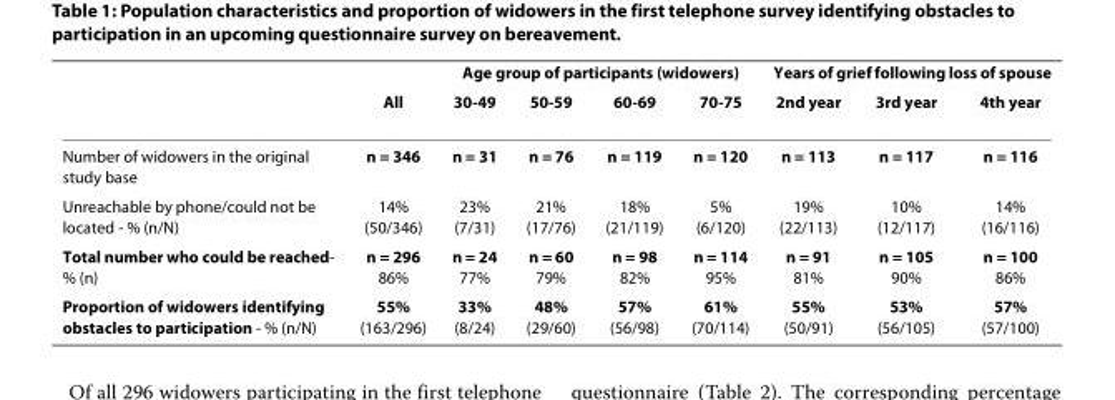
<table><thead><tr><td rowspan="2"></td><td rowspan="2">All</td><td colspan="4">Age group of participants (widowers)</td><td colspan="3">Years of grief following loss of spouse</td></tr><tr><td>30-49</td><td>50-59</td><td>60-69</td><td>70-75</td><td>2nd year</td><td>3rd year</td><td>4th year</td></tr></thead><tbody><tr><td>Number of widowers in the original study base</td><td>n = 346</td><td>n = 31</td><td>n = 76</td><td>n = 119</td><td>n = 120</td><td>n = 113</td><td>n = 117</td><td>n = 116</td></tr><tr><td>Unreachable by phone/could not be located - % (n/N)</td><td>14% (50/346)</td><td>23% (7/31)</td><td>21% (17/76)</td><td>18% (21/119)</td><td>5% (6/120)</td><td>19% (22/113)</td><td>10% (12/117)</td><td>14% (16/116)</td></tr><tr><td>Total number who could be reached- % (n)</td><td>n = 296 86%</td><td>n = 24 77%</td><td>n = 60 79%</td><td>n = 98 82%</td><td>n = 114 95%</td><td>n = 91 81%</td><td>n = 105 90%</td><td>n = 100 86%</td></tr><tr><td>Proportion of widowers identifying obstacles to participation - % (n/N)</td><td>55% (163/296)</td><td>33% (8/24)</td><td>48% (29/60)</td><td>57% (56/98)</td><td>61% (70/114)</td><td>55% (50/91)</td><td>53% (56/105)</td><td>57% (57/100)</td></tr></tbody></table>